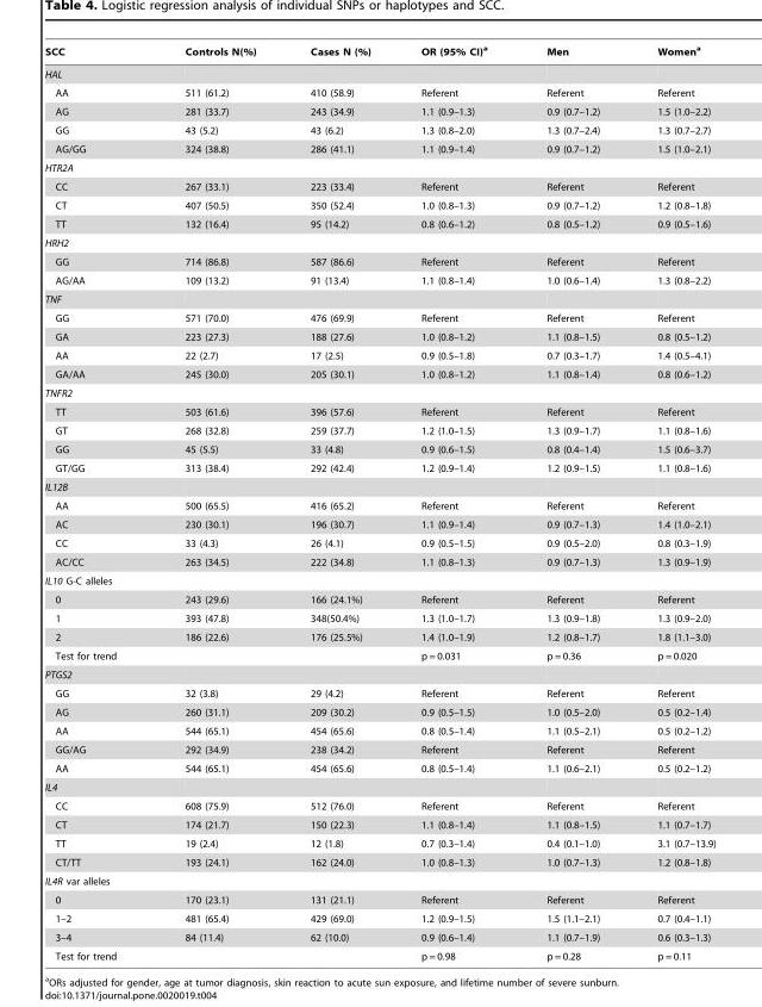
<table><thead><tr><td>SCC</td><td>Controls N(%)</td><td>Cases N (%)</td><td>OR (95% CI)<sup>a</sup></td><td>Men</td><td>Women<sup>a</sup></td></tr></thead><tbody><tr><td colspan="6">HAL</td></tr><tr><td>AA</td><td>511 (61.2)</td><td>410 (58.9)</td><td>Referent</td><td>Referent</td><td>Referent</td></tr><tr><td>AG</td><td>281 (33.7)</td><td>243 (34.9)</td><td>1.1 (0.9–1.3)</td><td>0.9 (0.7–1.2)</td><td>1.5 (1.0–2.2)</td></tr><tr><td>GG</td><td>43 (5.2)</td><td>43 (6.2)</td><td>1.3 (0.8–2.0)</td><td>1.3 (0.7–2.4)</td><td>1.3 (0.7–2.7)</td></tr><tr><td>AG/GG</td><td>324 (38.8)</td><td>286 (41.1)</td><td>1.1 (0.9–1.4)</td><td>0.9 (0.7–1.2)</td><td>1.5 (1.0–2.1)</td></tr><tr><td colspan="6">HTR2A</td></tr><tr><td>CC</td><td>267 (33.1)</td><td>223 (33.4)</td><td>Referent</td><td>Referent</td><td>Referent</td></tr><tr><td>CT</td><td>407 (50.5)</td><td>350 (52.4)</td><td>1.0 (0.8–1.3)</td><td>0.9 (0.7–1.2)</td><td>1.2 (0.8–1.8)</td></tr><tr><td>TT</td><td>132 (16.4)</td><td>95 (14.2)</td><td>0.8 (0.6–1.2)</td><td>0.8 (0.5–1.2)</td><td>0.9 (0.5–1.6)</td></tr><tr><td colspan="6">HRH2</td></tr><tr><td>GG</td><td>714 (86.8)</td><td>587 (86.6)</td><td>Referent</td><td>Referent</td><td>Referent</td></tr><tr><td>AG/AA</td><td>109 (13.2)</td><td>91 (13.4)</td><td>1.1 (0.8–1.4)</td><td>1.0 (0.6–1.4)</td><td>1.3 (0.8–2.2)</td></tr><tr><td colspan="6">TNF</td></tr><tr><td>GG</td><td>571 (70.0)</td><td>476 (69.9)</td><td>Referent</td><td>Referent</td><td>Referent</td></tr><tr><td>GA</td><td>223 (27.3)</td><td>188 (27.6)</td><td>1.0 (0.8–1.2)</td><td>1.1 (0.8–1.5)</td><td>0.8 (0.5–1.2)</td></tr><tr><td>AA</td><td>22 (2.7)</td><td>17 (2.5)</td><td>0.9 (0.5–1.8)</td><td>0.7 (0.3–1.7)</td><td>1.4 (0.5–4.1)</td></tr><tr><td>GA/AA</td><td>245 (30.0)</td><td>205 (30.1)</td><td>1.0 (0.8–1.2)</td><td>1.1 (0.8–1.4)</td><td>0.8 (0.6–1.2)</td></tr><tr><td colspan="6">TNFR2</td></tr><tr><td>TT</td><td>503 (61.6)</td><td>396 (57.6)</td><td>Referent</td><td>Referent</td><td>Referent</td></tr><tr><td>GT</td><td>268 (32.8)</td><td>259 (37.7)</td><td>1.2 (1.0–1.5)</td><td>1.3 (0.9–1.7)</td><td>1.1 (0.8–1.6)</td></tr><tr><td>GG</td><td>45 (5.5)</td><td>33 (4.8)</td><td>0.9 (0.6–1.5)</td><td>0.8 (0.4–1.4)</td><td>1.5 (0.6–3.7)</td></tr><tr><td>GT/GG</td><td>313 (38.4)</td><td>292 (42.4)</td><td>1.2 (0.9–1.4)</td><td>1.2 (0.9–1.5)</td><td>1.1 (0.8–1.6)</td></tr><tr><td colspan="6">IL12B</td></tr><tr><td>AA</td><td>500 (65.5)</td><td>416 (65.2)</td><td>Referent</td><td>Referent</td><td>Referent</td></tr><tr><td>AC</td><td>230 (30.1)</td><td>196 (30.7)</td><td>1.1 (0.9–1.4)</td><td>0.9 (0.7–1.3)</td><td>1.4 (1.0–2.1)</td></tr><tr><td>CC</td><td>33 (4.3)</td><td>26 (4.1)</td><td>0.9 (0.5–1.5)</td><td>0.9 (0.5–2.0)</td><td>0.8 (0.3–1.9)</td></tr><tr><td>AC/CC</td><td>263 (34.5)</td><td>222 (34.8)</td><td>1.1 (0.8–1.3)</td><td>0.9 (0.7–1.3)</td><td>1.3 (0.9–1.9)</td></tr><tr><td colspan="6">IL10 G-C alleles</td></tr><tr><td>0</td><td>243 (29.6)</td><td>166 (24.1%)</td><td>Referent</td><td>Referent</td><td>Referent</td></tr><tr><td>1</td><td>393 (47.8)</td><td>348(50.4%)</td><td>1.3 (1.0–1.7)</td><td>1.3 (0.9–1.8)</td><td>1.3 (0.9–2.0)</td></tr><tr><td>2</td><td>186 (22.6)</td><td>176 (25.5%)</td><td>1.4 (1.0–1.9)</td><td>1.2 (0.8–1.7)</td><td>1.8 (1.1–3.0)</td></tr><tr><td>Test for trend</td><td></td><td></td><td>p = 0.031</td><td>p = 0.36</td><td>p = 0.020</td></tr><tr><td colspan="6">PTGS2</td></tr><tr><td>GG</td><td>32 (3.8)</td><td>29 (4.2)</td><td>Referent</td><td>Referent</td><td>Referent</td></tr><tr><td>AG</td><td>260 (31.1)</td><td>209 (30.2)</td><td>0.9 (0.5–1.5)</td><td>1.0 (0.5–2.0)</td><td>0.5 (0.2–1.4)</td></tr><tr><td>AA</td><td>544 (65.1)</td><td>454 (65.6)</td><td>0.8 (0.5–1.4)</td><td>1.1 (0.5–2.1)</td><td>0.5 (0.2–1.2)</td></tr><tr><td>GG/AG</td><td>292 (34.9)</td><td>238 (34.2)</td><td>Referent</td><td>Referent</td><td>Referent</td></tr><tr><td>AA</td><td>544 (65.1)</td><td>454 (65.6)</td><td>0.8 (0.5–1.4)</td><td>1.1 (0.6–2.1)</td><td>0.5 (0.2–1.2)</td></tr><tr><td colspan="6">IL4</td></tr><tr><td>CC</td><td>608 (75.9)</td><td>512 (76.0)</td><td>Referent</td><td>Referent</td><td>Referent</td></tr><tr><td>CT</td><td>174 (21.7)</td><td>150 (22.3)</td><td>1.1 (0.8–1.4)</td><td>1.1 (0.8–1.5)</td><td>1.1 (0.7–1.7)</td></tr><tr><td>TT</td><td>19 (2.4)</td><td>12 (1.8)</td><td>0.7 (0.3–1.4)</td><td>0.4 (0.1–1.0)</td><td>3.1 (0.7–13.9)</td></tr><tr><td>CT/TT</td><td>193 (24.1)</td><td>162 (24.0)</td><td>1.0 (0.8–1.3)</td><td>1.0 (0.7–1.3)</td><td>1.2 (0.8–1.8)</td></tr><tr><td colspan="6">IL4R var alleles</td></tr><tr><td>0</td><td>170 (23.1)</td><td>131 (21.1)</td><td>Referent</td><td>Referent</td><td>Referent</td></tr><tr><td>1–2</td><td>481 (65.4)</td><td>429 (69.0)</td><td>1.2 (0.9–1.5)</td><td>1.5 (1.1–2.1)</td><td>0.7 (0.4–1.1)</td></tr><tr><td>3–4</td><td>84 (11.4)</td><td>62 (10.0)</td><td>0.9 (0.6–1.4)</td><td>1.1 (0.7–1.9)</td><td>0.6 (0.3–1.3)</td></tr><tr><td>Test for trend</td><td></td><td></td><td>p = 0.98</td><td>p = 0.28</td><td>p = 0.11</td></tr></tbody></table>